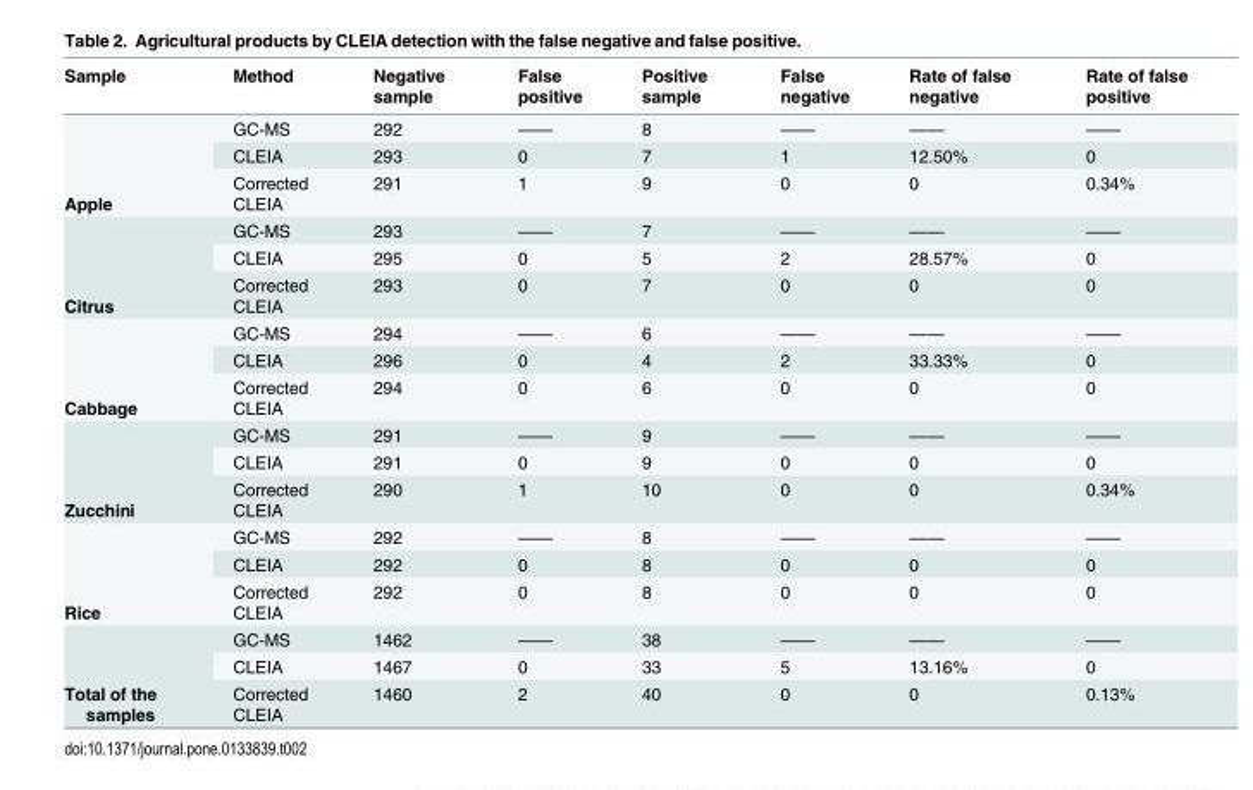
<table><thead><tr><td>Sample</td><td>Method</td><td>Negative sample</td><td>False positive</td><td>Positive sample</td><td>False negative</td><td>Rate of false negative</td><td>Rate of false positive</td></tr></thead><tbody><tr><td rowspan="3">Apple</td><td>GC-MS</td><td>292</td><td>——</td><td>8</td><td>——</td><td>——</td><td>——</td></tr><tr><td>CLEIA</td><td>293</td><td>0</td><td>7</td><td>1</td><td>12.50%</td><td>0</td></tr><tr><td>Corrected CLEIA</td><td>291</td><td>1</td><td>9</td><td>0</td><td>0</td><td>0.34%</td></tr><tr><td rowspan="3">Citrus</td><td>GC-MS</td><td>293</td><td>——</td><td>7</td><td>——</td><td>——</td><td>——</td></tr><tr><td>CLEIA</td><td>295</td><td>0</td><td>5</td><td>2</td><td>28.57%</td><td>0</td></tr><tr><td>Corrected CLEIA</td><td>293</td><td>0</td><td>7</td><td>0</td><td>0</td><td>0</td></tr><tr><td rowspan="3">Cabbage</td><td>GC-MS</td><td>294</td><td>——</td><td>6</td><td>——</td><td>——</td><td>——</td></tr><tr><td>CLEIA</td><td>296</td><td>0</td><td>4</td><td>2</td><td>33.33%</td><td>0</td></tr><tr><td>Corrected CLEIA</td><td>294</td><td>0</td><td>6</td><td>0</td><td>0</td><td>0</td></tr><tr><td rowspan="3">Zucchini</td><td>GC-MS</td><td>291</td><td>——</td><td>9</td><td>——</td><td>——</td><td>——</td></tr><tr><td>CLEIA</td><td>291</td><td>0</td><td>9</td><td>0</td><td>0</td><td>0</td></tr><tr><td>Corrected CLEIA</td><td>290</td><td>1</td><td>10</td><td>0</td><td>0</td><td>0.34%</td></tr><tr><td rowspan="3">Rice</td><td>GC-MS</td><td>292</td><td>——</td><td>8</td><td>——</td><td>——</td><td>——</td></tr><tr><td>CLEIA</td><td>292</td><td>0</td><td>8</td><td>0</td><td>0</td><td>0</td></tr><tr><td>Corrected CLEIA</td><td>292</td><td>0</td><td>8</td><td>0</td><td>0</td><td>0</td></tr><tr><td rowspan="3">Total of the samples</td><td>GC-MS</td><td>1462</td><td>——</td><td>38</td><td>——</td><td>——</td><td>——</td></tr><tr><td>CLEIA</td><td>1467</td><td>0</td><td>33</td><td>5</td><td>13.16%</td><td>0</td></tr><tr><td>Corrected CLEIA</td><td>1460</td><td>2</td><td>40</td><td>0</td><td>0</td><td>0.13%</td></tr></tbody></table>